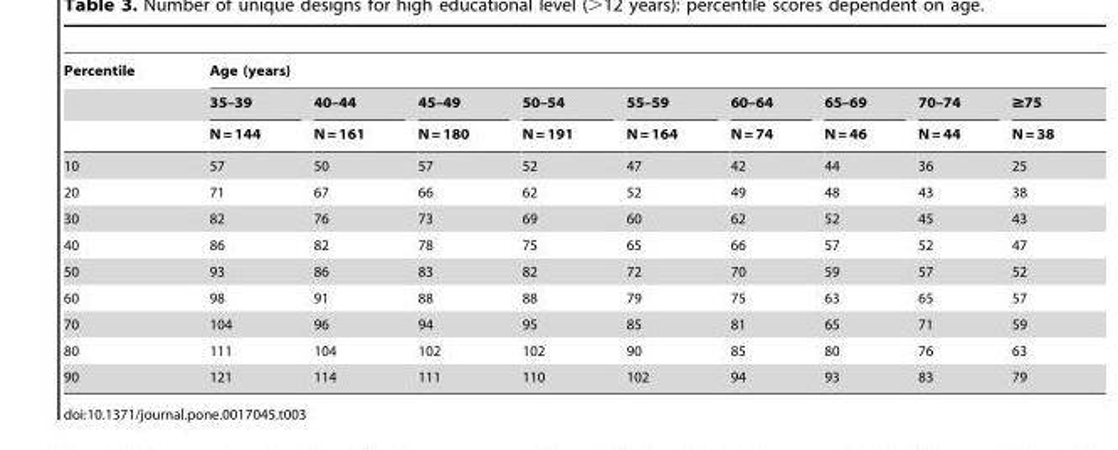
<table><thead><tr><td rowspan="3">Percentile</td><td colspan="9">Age (years)</td></tr><tr><td rowspan="2">35–39 N = 144</td><td rowspan="2">40–44 N = 161</td><td rowspan="2">45–49 N = 180</td><td rowspan="2">50–54 N = 191</td><td rowspan="2">55–59 N = 164</td><td rowspan="2">60–64 N = 74</td><td rowspan="2">65–69 N = 46</td><td rowspan="2">70–74 N = 44</td><td rowspan="2">≥75 N = 38</td></tr><tr></tr></thead><tbody><tr><td>10</td><td>57</td><td>50</td><td>57</td><td>52</td><td>47</td><td>42</td><td>44</td><td>36</td><td>25</td></tr><tr><td>20</td><td>71</td><td>67</td><td>66</td><td>62</td><td>52</td><td>49</td><td>48</td><td>43</td><td>38</td></tr><tr><td>30</td><td>82</td><td>76</td><td>73</td><td>69</td><td>60</td><td>62</td><td>52</td><td>45</td><td>43</td></tr><tr><td>40</td><td>86</td><td>82</td><td>78</td><td>75</td><td>65</td><td>66</td><td>57</td><td>52</td><td>47</td></tr><tr><td>50</td><td>93</td><td>86</td><td>83</td><td>82</td><td>72</td><td>70</td><td>59</td><td>57</td><td>52</td></tr><tr><td>60</td><td>98</td><td>91</td><td>88</td><td>88</td><td>79</td><td>75</td><td>63</td><td>65</td><td>57</td></tr><tr><td>70</td><td>104</td><td>96</td><td>94</td><td>95</td><td>85</td><td>81</td><td>65</td><td>71</td><td>59</td></tr><tr><td>80</td><td>111</td><td>104</td><td>102</td><td>102</td><td>90</td><td>85</td><td>80</td><td>76</td><td>63</td></tr><tr><td>90</td><td>121</td><td>114</td><td>111</td><td>110</td><td>102</td><td>94</td><td>93</td><td>83</td><td>79</td></tr></tbody></table>